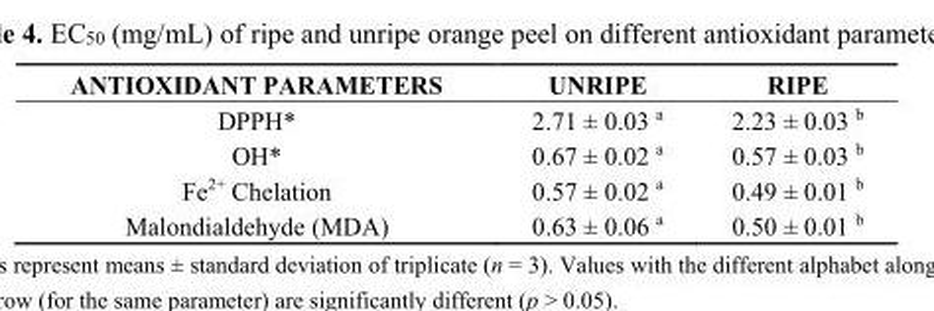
<table><thead><tr><td>ANTIOXIDANT PARAMETERS</td><td>UNRIPE</td><td>RIPE</td></tr></thead><tbody><tr><td>DPPH*</td><td>2.71 ± 0.03 <sup>a</sup></td><td>2.23 ± 0.03 <sup>b</sup></td></tr><tr><td>OH*</td><td>0.67 ± 0.02 <sup>a</sup></td><td>0.57 ± 0.03 <sup>b</sup></td></tr><tr><td>Fe<sup>2+</sup> Chelation</td><td>0.57 ± 0.02 <sup>a</sup></td><td>0.49 ± 0.01 <sup>b</sup></td></tr><tr><td>Malondialdehyde (MDA)</td><td>0.63 ± 0.06 <sup>a</sup></td><td>0.50 ± 0.01 <sup>b</sup></td></tr></tbody></table>